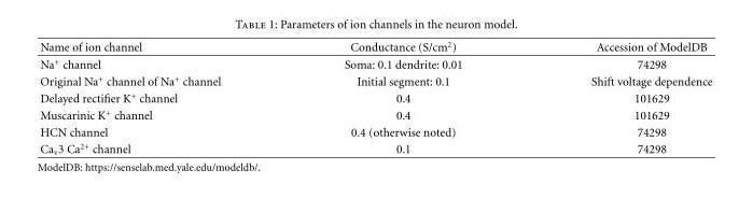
<table><thead><tr><td>Name of ion channel</td><td>Conductance (S/cm<sup>2</sup>)</td><td>Accession of ModelDB</td></tr></thead><tbody><tr><td>Na<sup>+</sup> channel</td><td>Soma: 0.1 dendrite: 0.01</td><td>74298</td></tr><tr><td>Original Na<sup>+</sup> channel of Na<sup>+</sup> channel</td><td>Initial segment: 0.1</td><td>Shift voltage dependence</td></tr><tr><td>Delayed rectifier K<sup>+</sup> channel</td><td>0.4</td><td>101629</td></tr><tr><td>Muscarinic K<sup>+</sup> channel</td><td>0.4</td><td>101629</td></tr><tr><td>HCN channel</td><td>0.4 (otherwise noted)</td><td>74298</td></tr><tr><td>Ca<sub>v</sub>3 Ca<sup>2+</sup> channel</td><td>0.1</td><td>74298</td></tr></tbody></table>